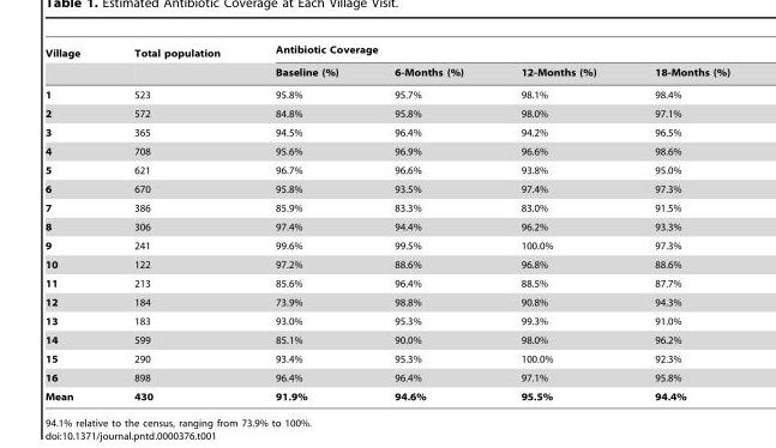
<table><thead><tr><td rowspan="2">Village</td><td rowspan="2">Total population</td><td colspan="4">Antibiotic Coverage</td></tr><tr><td>Baseline (%)</td><td>6-Months (%)</td><td>12-Months (%)</td><td>18-Months (%)</td></tr></thead><tbody><tr><td>1</td><td>523</td><td>95.8%</td><td>95.7%</td><td>98.1%</td><td>98.4%</td></tr><tr><td>2</td><td>572</td><td>84.8%</td><td>95.8%</td><td>98.0%</td><td>97.1%</td></tr><tr><td>3</td><td>365</td><td>94.5%</td><td>96.4%</td><td>94.2%</td><td>96.5%</td></tr><tr><td>4</td><td>708</td><td>95.6%</td><td>96.9%</td><td>96.6%</td><td>98.6%</td></tr><tr><td>5</td><td>621</td><td>96.7%</td><td>96.6%</td><td>93.8%</td><td>95.0%</td></tr><tr><td>6</td><td>670</td><td>95.8%</td><td>93.5%</td><td>97.4%</td><td>97.3%</td></tr><tr><td>7</td><td>386</td><td>85.9%</td><td>83.3%</td><td>83.0%</td><td>91.5%</td></tr><tr><td>8</td><td>306</td><td>97.4%</td><td>94.4%</td><td>96.2%</td><td>93.3%</td></tr><tr><td>9</td><td>241</td><td>99.6%</td><td>99.5%</td><td>100.0%</td><td>97.3%</td></tr><tr><td>10</td><td>122</td><td>97.2%</td><td>88.6%</td><td>96.8%</td><td>88.6%</td></tr><tr><td>11</td><td>213</td><td>85.6%</td><td>96.4%</td><td>88.5%</td><td>87.7%</td></tr><tr><td>12</td><td>184</td><td>73.9%</td><td>98.8%</td><td>90.8%</td><td>94.3%</td></tr><tr><td>13</td><td>183</td><td>93.0%</td><td>95.3%</td><td>99.3%</td><td>91.0%</td></tr><tr><td>14</td><td>599</td><td>85.1%</td><td>90.0%</td><td>98.0%</td><td>96.2%</td></tr><tr><td>15</td><td>290</td><td>93.4%</td><td>95.3%</td><td>100.0%</td><td>92.3%</td></tr><tr><td>16</td><td>898</td><td>96.4%</td><td>96.4%</td><td>97.1%</td><td>95.8%</td></tr><tr><td>Mean</td><td>430</td><td>91.9%</td><td>94.6%</td><td>95.5%</td><td>94.4%</td></tr></tbody></table>